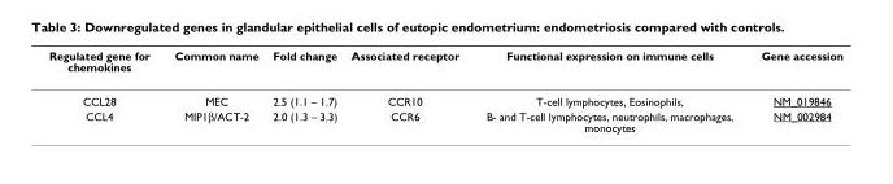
<table><thead><tr><td>Regulated gene for chemokines</td><td>Common name</td><td>Fold change</td><td>Associated receptor</td><td>Functional expression on immune cells</td><td>Gene accession</td></tr></thead><tbody><tr><td>CCL28</td><td>MEC</td><td>2.5 (1.1 – 1.7)</td><td>CCR10</td><td>T-cell lymphocytes, Eosinophils,</td><td>NM_019846</td></tr><tr><td>CCL4</td><td>MIP1β/ACT-2</td><td>2.0 (1.3 – 3.3)</td><td>CCR6</td><td>B- and T-cell lymphocytes, neutrophils, macrophages, monocytes</td><td>NM_002984</td></tr></tbody></table>